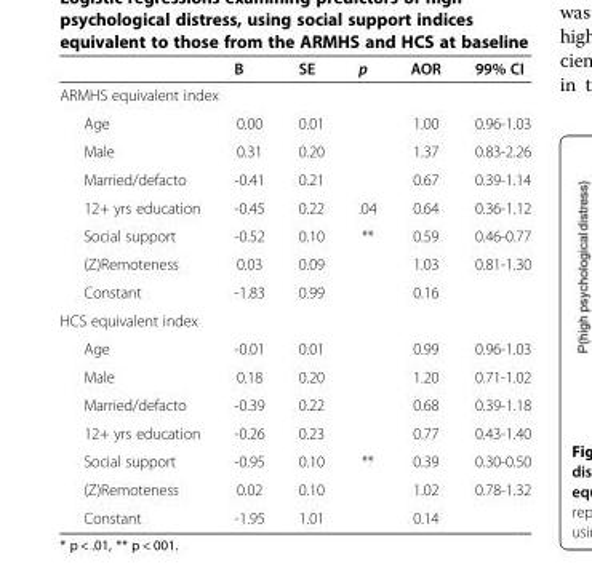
<table><thead><tr><td></td><td>B</td><td>SE</td><td>p</td><td>AOR</td><td>99% CI</td></tr></thead><tbody><tr><td colspan="6">ARMHS equivalent index</td></tr><tr><td>Age</td><td>0.00</td><td>0.01</td><td></td><td>1.00</td><td>0.96-1.03</td></tr><tr><td>Male</td><td>0.31</td><td>0.20</td><td></td><td>1.37</td><td>0.83-2.26</td></tr><tr><td>Married/defacto</td><td>-0.41</td><td>0.21</td><td></td><td>0.67</td><td>0.39-1.14</td></tr><tr><td>12+ yrs education</td><td>-0.45</td><td>0.22</td><td>.04</td><td>0.64</td><td>0.36-1.12</td></tr><tr><td>Social support</td><td>-0.52</td><td>0.10</td><td>**</td><td>0.59</td><td>0.46-0.77</td></tr><tr><td>(Z)Remoteness</td><td>0.03</td><td>0.09</td><td></td><td>1.03</td><td>0.81-1.30</td></tr><tr><td>Constant</td><td>-1.83</td><td>0.99</td><td></td><td>0.16</td><td></td></tr><tr><td colspan="6">HCS equivalent index</td></tr><tr><td>Age</td><td>-0.01</td><td>0.01</td><td></td><td>0.99</td><td>0.96-1.03</td></tr><tr><td>Male</td><td>0.18</td><td>0.20</td><td></td><td>1.20</td><td>0.71-1.02</td></tr><tr><td>Married/defacto</td><td>-0.39</td><td>0.22</td><td></td><td>0.68</td><td>0.39-1.18</td></tr><tr><td>12+ yrs education</td><td>-0.26</td><td>0.23</td><td></td><td>0.77</td><td>0.43-1.40</td></tr><tr><td>Social support</td><td>-0.95</td><td>0.10</td><td>**</td><td>0.39</td><td>0.30-0.50</td></tr><tr><td>(Z)Remoteness</td><td>0.02</td><td>0.10</td><td></td><td>1.02</td><td>0.78-1.32</td></tr><tr><td>Constant</td><td>-1.95</td><td>1.01</td><td></td><td>0.14</td><td></td></tr></tbody></table>